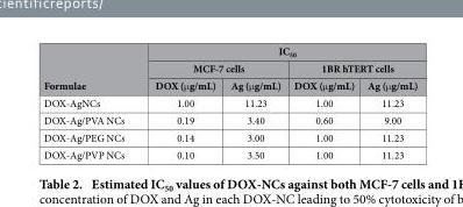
<table><thead><tr><td rowspan="3">Formulae</td><td colspan="4">IC<sub>50</sub></td></tr><tr><td colspan="2">MCF-7 cells</td><td colspan="2">1BR hTERT cells</td></tr><tr><td>DOX (μ g/mL)</td><td>Ag (μ g/mL)</td><td>DOX (μ g/mL)</td><td>Ag (μ g/mL)</td></tr></thead><tbody><tr><td>DOX-AgNCs</td><td>1.00</td><td>11.23</td><td>1.00</td><td>11.23</td></tr><tr><td>DOX-Ag/PVA NCs</td><td>0.19</td><td>3.40</td><td>0.60</td><td>9.00</td></tr><tr><td>DOX-Ag/PEG NCs</td><td>0.14</td><td>3.00</td><td>1.00</td><td>11.23</td></tr><tr><td>DOX-Ag/PVP NCs</td><td>0.10</td><td>3.50</td><td>1.00</td><td>11.23</td></tr></tbody></table>